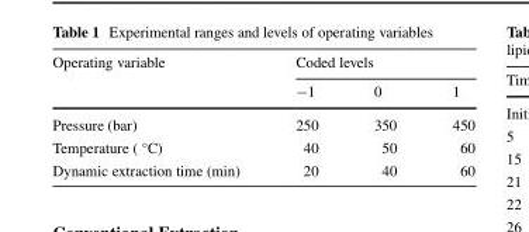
<table><thead><tr><td rowspan="2">Operating variable</td><td colspan="3">Coded levels</td></tr><tr><td>−1</td><td>0</td><td>1</td></tr></thead><tbody><tr><td>Pressure (bar)</td><td>250</td><td>350</td><td>450</td></tr><tr><td>Temperature ( °C)</td><td>40</td><td>50</td><td>60</td></tr><tr><td>Dynamic extraction time (min)</td><td>20</td><td>40</td><td>60</td></tr></tbody></table>